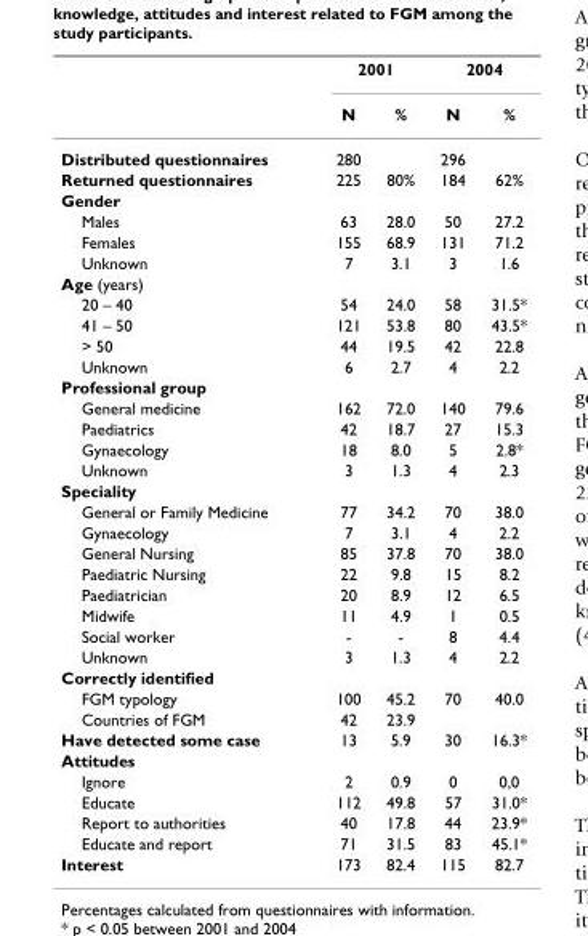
<table><thead><tr><td rowspan="2"></td><td colspan="2">2001</td><td colspan="2">2004</td></tr><tr><td>N</td><td>%</td><td>N</td><td>%</td></tr></thead><tbody><tr><td>Distributed questionnaires</td><td>280</td><td></td><td>296</td><td></td></tr><tr><td>Returned questionnaires</td><td>225</td><td>80%</td><td>184</td><td>62%</td></tr><tr><td colspan="5">Gender</td></tr><tr><td>Males</td><td>63</td><td>28.0</td><td>50</td><td>27.2</td></tr><tr><td>Females</td><td>155</td><td>68.9</td><td>131</td><td>71.2</td></tr><tr><td>Unknown</td><td>7</td><td>3.1</td><td>3</td><td>1.6</td></tr><tr><td colspan="5">Age (years)</td></tr><tr><td>20 – 40</td><td>54</td><td>24.0</td><td>58</td><td>31.5*</td></tr><tr><td>41 – 50</td><td>121</td><td>53.8</td><td>80</td><td>43.5*</td></tr><tr><td>&gt; 50</td><td>44</td><td>19.5</td><td>42</td><td>22.8</td></tr><tr><td>Unknown</td><td>6</td><td>2.7</td><td>4</td><td>2.2</td></tr><tr><td colspan="5">Professional group</td></tr><tr><td>General medicine</td><td>162</td><td>72.0</td><td>140</td><td>79.6</td></tr><tr><td>Paediatrics</td><td>42</td><td>18.7</td><td>27</td><td>15.3</td></tr><tr><td>Gynaecology</td><td>18</td><td>8.0</td><td>5</td><td>2.8*</td></tr><tr><td>Unknown</td><td>3</td><td>1.3</td><td>4</td><td>2.3</td></tr><tr><td colspan="5">Speciality</td></tr><tr><td>General or Family Medicine</td><td>77</td><td>34.2</td><td>70</td><td>38.0</td></tr><tr><td>Gynaecology</td><td>7</td><td>3.1</td><td>4</td><td>2.2</td></tr><tr><td>General Nursing</td><td>85</td><td>37.8</td><td>70</td><td>38.0</td></tr><tr><td>Paediatric Nursing</td><td>22</td><td>9.8</td><td>15</td><td>8.2</td></tr><tr><td>Paediatrician</td><td>20</td><td>8.9</td><td>12</td><td>6.5</td></tr><tr><td>Midwife</td><td>11</td><td>4.9</td><td>1</td><td>0.5</td></tr><tr><td>Social worker</td><td>-</td><td>-</td><td>8</td><td>4.4</td></tr><tr><td>Unknown</td><td>3</td><td>1.3</td><td>4</td><td>2.2</td></tr><tr><td colspan="5">Correctly identified</td></tr><tr><td>FGM typology</td><td>100</td><td>45.2</td><td>70</td><td>40.0</td></tr><tr><td>Countries of FGM</td><td>42</td><td>23.9</td><td></td><td></td></tr><tr><td>Have detected some case</td><td>13</td><td>5.9</td><td>30</td><td>16.3*</td></tr><tr><td colspan="5">Attitudes</td></tr><tr><td>Ignore</td><td>2</td><td>0.9</td><td>0</td><td>0,0</td></tr><tr><td>Educate</td><td>112</td><td>49.8</td><td>57</td><td>31.0*</td></tr><tr><td>Report to authorities</td><td>40</td><td>17.8</td><td>44</td><td>23.9*</td></tr><tr><td>Educate and report</td><td>71</td><td>31.5</td><td>83</td><td>45.1*</td></tr><tr><td>Interest</td><td>173</td><td>82.4</td><td>115</td><td>82.7</td></tr></tbody></table>